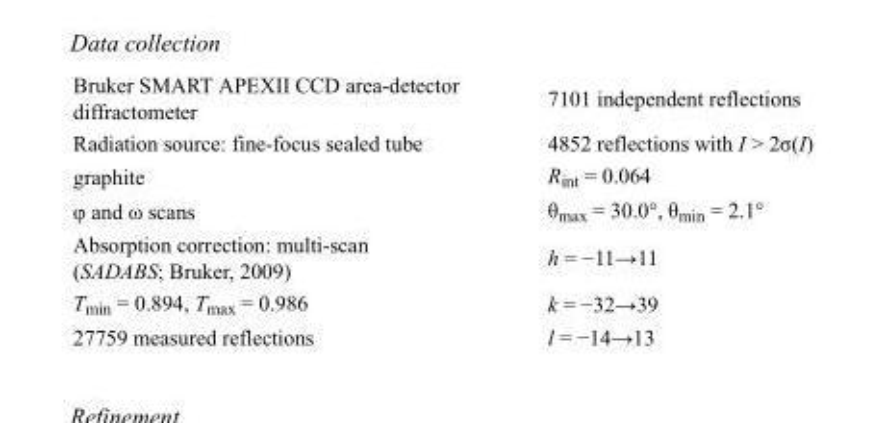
<table><tbody><tr><td>Bruker SMART APEXII CCD area-detector diffractometer</td><td>7101 independent reflections</td></tr><tr><td>Radiation source: fine-focus sealed tube</td><td>4852 reflections with I &gt; 2σ(I)</td></tr><tr><td>graphite</td><td>R<sub>int</sub> = 0.064</td></tr><tr><td>φ and ω scans</td><td>θ<sub>max</sub> = 30.0°, θ<sub>min</sub> = 2.1°</td></tr><tr><td>Absorption correction: multi-scan (SADABS; Bruker, 2009)</td><td>h = −11→11</td></tr><tr><td>T<sub>min</sub> = 0.894, T<sub>max</sub> = 0.986</td><td>k = −32→39</td></tr><tr><td>27759 measured reflections</td><td>l = −14→13</td></tr></tbody></table>